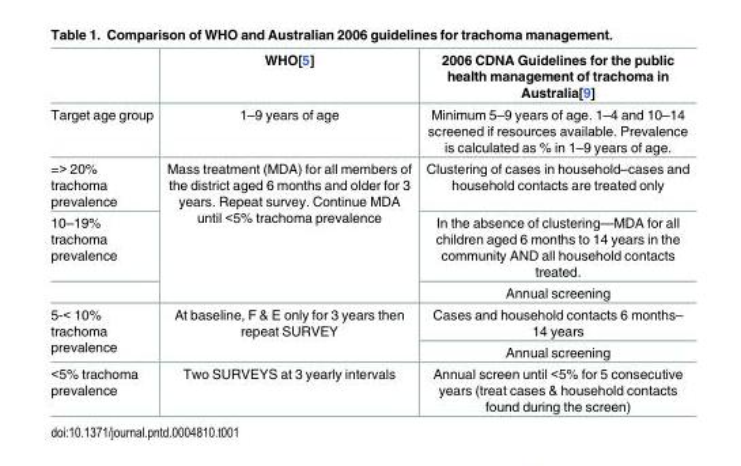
<table><thead><tr><td></td><td>WHO[5]</td><td>2006 CDNA Guidelines for the public health management of trachoma in Australia[9]</td></tr></thead><tbody><tr><td>Target age group</td><td>1–9 years of age</td><td>Minimum 5–9 years of age. 1–4 and 10–14 screened if resources available. Prevalence is calculated as % in 1–9 years of age.</td></tr><tr><td>=&gt; 20% trachoma prevalence</td><td rowspan="3">Mass treatment (MDA) for all members of the district aged 6 months and older for 3 years. Repeat survey. Continue MDA until &lt;5% trachoma prevalence</td><td>Clustering of cases in household–cases and household contacts are treated only</td></tr><tr><td rowspan="2">10–19% trachoma prevalence</td><td>In the absence of clustering—MDA for all children aged 6 months to 14 years in the community AND all household contacts treated.</td></tr><tr><td>Annual screening</td></tr><tr><td rowspan="2">5-&lt; 10% trachoma prevalence</td><td rowspan="2">At baseline, F &amp; E only for 3 years then repeat SURVEY</td><td>Cases and household contacts 6 months– 14 years</td></tr><tr><td>Annual screening</td></tr><tr><td>&lt;5% trachoma prevalence</td><td>Two SURVEYS at 3 yearly intervals</td><td>Annual screen until &lt;5% for 5 consecutive years (treat cases &amp; household contacts found during the screen)</td></tr></tbody></table>